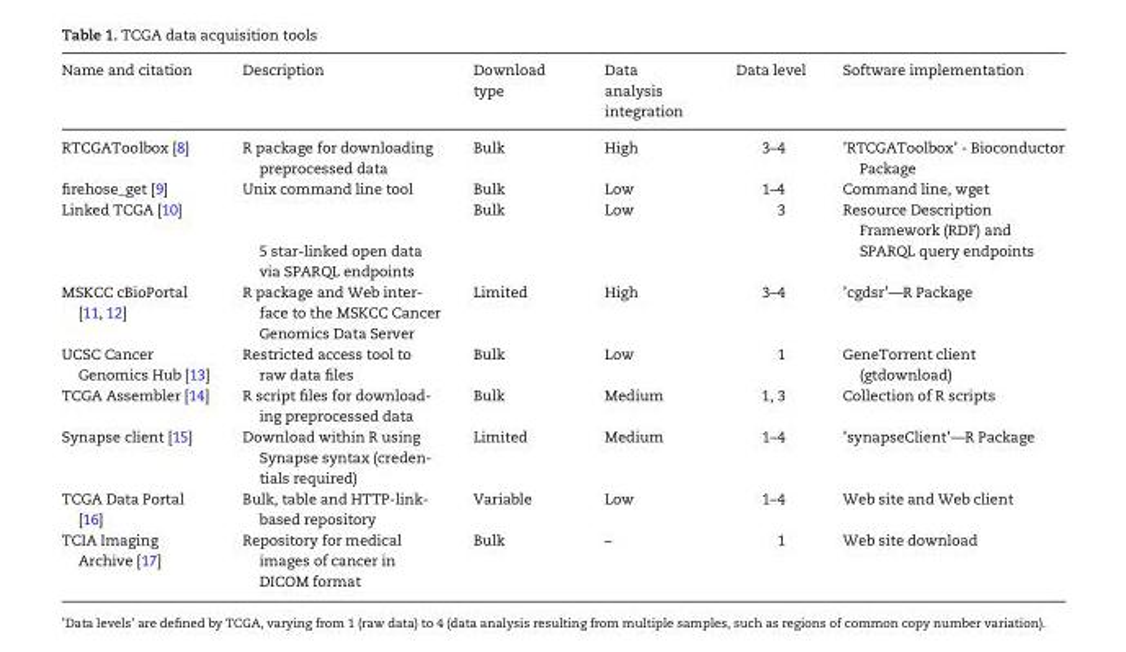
<table><thead><tr><td>Name and citation</td><td>Description</td><td>Download type</td><td>Data analysis integration</td><td>Data level</td><td>Software implementation</td></tr></thead><tbody><tr><td>RTCGAToolbox [8]</td><td>R package for downloading preprocessed data</td><td>Bulk</td><td>High</td><td>3–4</td><td>’RTCGAToolbox’ - Bioconductor Package</td></tr><tr><td>firehose_get [9]</td><td>Unix command line tool</td><td>Bulk</td><td>Low</td><td>1–4</td><td>Command line, wget</td></tr><tr><td>Linked TCGA [10]</td><td>5 star-linked open data via SPARQL endpoints</td><td>Bulk</td><td>Low</td><td>3</td><td>Resource Description Framework (RDF) and SPARQL query endpoints</td></tr><tr><td>MSKCC cBioPortal [11, 12]</td><td>R package and Web inter- face to the MSKCC Cancer Genomics Data Server</td><td>Limited</td><td>High</td><td>3–4</td><td>’cgdsr’—R Package</td></tr><tr><td>UCSC Cancer Genomics Hub [13]</td><td>Restricted access tool to raw data files</td><td>Bulk</td><td>Low</td><td>1</td><td>GeneTorrent client (gtdownload)</td></tr><tr><td>TCGA Assembler [14]</td><td>R script files for download- ing preprocessed data</td><td>Bulk</td><td>Medium</td><td>1, 3</td><td>Collection of R scripts</td></tr><tr><td>Synapse client [15]</td><td>Download within R using Synapse syntax (creden- tials required)</td><td>Limited</td><td>Medium</td><td>1–4</td><td>’synapseClient’—R Package</td></tr><tr><td>TCGA Data Portal [16]</td><td>Bulk, table and HTTP-link- based repository</td><td>Variable</td><td>Low</td><td>1–4</td><td>Web site and Web client</td></tr><tr><td>TCIA Imaging Archive [17]</td><td>Repository for medical images of cancer in DICOM format</td><td>Bulk</td><td>–</td><td>1</td><td>Web site download</td></tr></tbody></table>